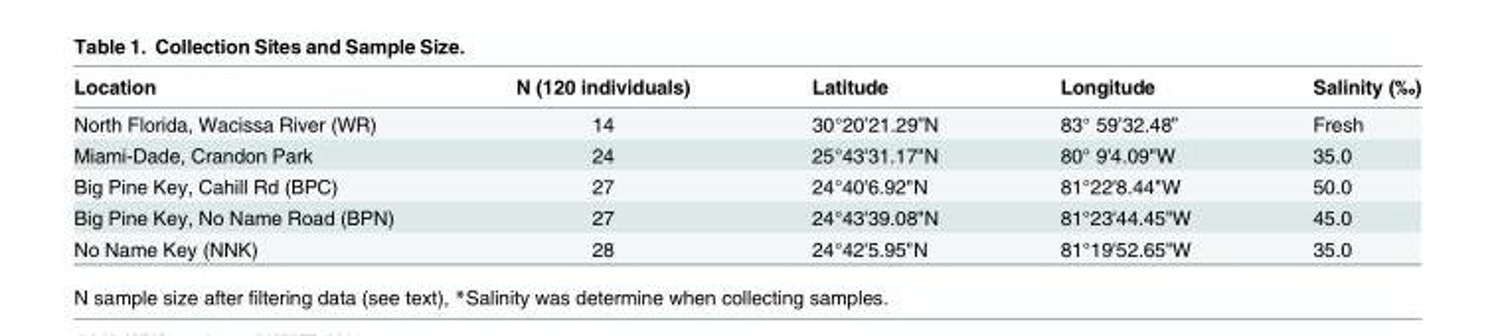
<table><thead><tr><td>Location</td><td>N (120 individuals)</td><td>Latitude</td><td>Longitude</td><td>Salinity (‰)</td></tr></thead><tbody><tr><td>North Florida, Wacissa River (WR)</td><td>14</td><td>30°20’21.29”N</td><td>83° 59’32.48”</td><td>Fresh</td></tr><tr><td>Miami-Dade, Crandon Park</td><td>24</td><td>25°43&#x27;31.17&quot;N</td><td>80° 9&#x27;4.09&quot;W</td><td>35.0</td></tr><tr><td>Big Pine Key, Cahill Rd (BPC)</td><td>27</td><td>24°40&#x27;6.92&quot;N</td><td>81°22&#x27;8.44&quot;W</td><td>50.0</td></tr><tr><td>Big Pine Key, No Name Road (BPN)</td><td>27</td><td>24°43&#x27;39.08&quot;N</td><td>81°23&#x27;44.45&quot;W</td><td>45.0</td></tr><tr><td>No Name Key (NNK)</td><td>28</td><td>24°42&#x27;5.95&quot;N</td><td>81°19&#x27;52.65&quot;W</td><td>35.0</td></tr></tbody></table>